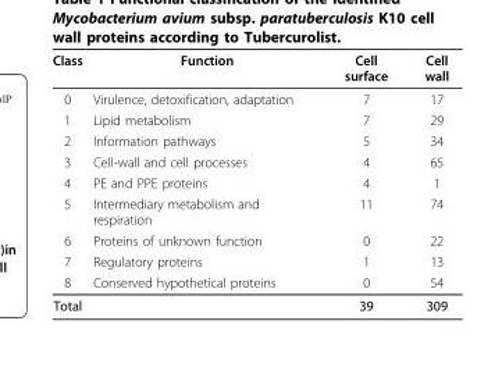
<table><thead><tr><td>Class</td><td>Function</td><td>Cell surface</td><td>Cell wall</td></tr></thead><tbody><tr><td>0</td><td>Virulence, detoxification, adaptation</td><td>7</td><td>17</td></tr><tr><td>1</td><td>Lipid metabolism</td><td>7</td><td>29</td></tr><tr><td>2</td><td>Information pathways</td><td>5</td><td>34</td></tr><tr><td>3</td><td>Cell-wall and cell processes</td><td>4</td><td>65</td></tr><tr><td>4</td><td>PE and PPE proteins</td><td>4</td><td>1</td></tr><tr><td>5</td><td>Intermediary metabolism and respiration</td><td>11</td><td>74</td></tr><tr><td>6</td><td>Proteins of unknown function</td><td>0</td><td>22</td></tr><tr><td>7</td><td>Regulatory proteins</td><td>1</td><td>13</td></tr><tr><td>8</td><td>Conserved hypothetical proteins</td><td>0</td><td>54</td></tr><tr><td>Total</td><td></td><td>39</td><td>309</td></tr></tbody></table>